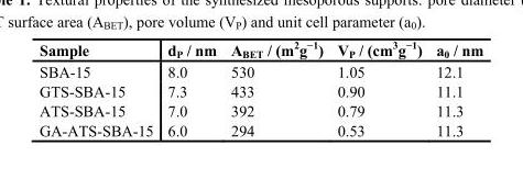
<table><thead><tr><td>Sample</td><td>d<sub>P</sub> / nm</td><td>A<sub>BET</sub> / (m<sup>2</sup>g<sup>−1</sup>)</td><td>V<sub>P</sub> / (cm<sup>3</sup>g<sup>−1</sup>)</td><td>a<sub>0</sub> / nm</td></tr></thead><tbody><tr><td>SBA-15</td><td>8.0</td><td>530</td><td>1.05</td><td>12.1</td></tr><tr><td>GTS-SBA-15</td><td>7.3</td><td>433</td><td>0.90</td><td>11.1</td></tr><tr><td>ATS-SBA-15</td><td>7.0</td><td>392</td><td>0.79</td><td>11.3</td></tr><tr><td>GA-ATS-SBA-15</td><td>6.0</td><td>294</td><td>0.53</td><td>11.3</td></tr></tbody></table>